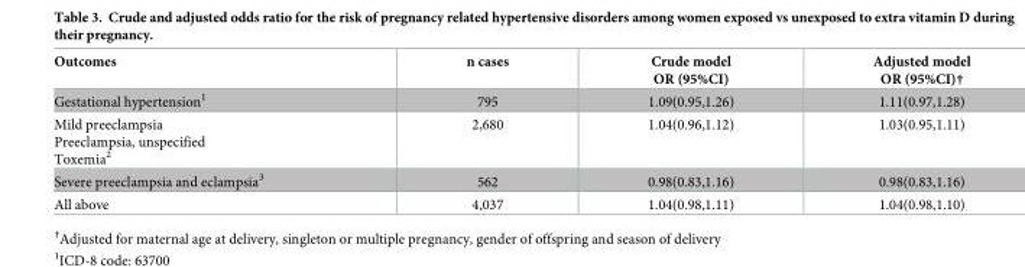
<table><thead><tr><td>Outcomes</td><td>n cases</td><td>Crude model OR (95%CI)</td><td>Adjusted model OR (95%CI)†</td></tr></thead><tbody><tr><td>Gestational hypertension<sup>1</sup></td><td>795</td><td>1.09(0.95,1.26)</td><td>1.11(0.97,1.28)</td></tr><tr><td>Mild preeclampsia Preeclampsia, unspecified Toxemia<sup>2</sup></td><td>2,680</td><td>1.04(0.96,1.12)</td><td>1.03(0.95,1.11)</td></tr><tr><td>Severe preeclampsia and eclampsia<sup>3</sup></td><td>562</td><td>0.98(0.83,1.16)</td><td>0.98(0.83,1.16)</td></tr><tr><td>All above</td><td>4,037</td><td>1.04(0.98,1.11)</td><td>1.04(0.98,1.10)</td></tr></tbody></table>